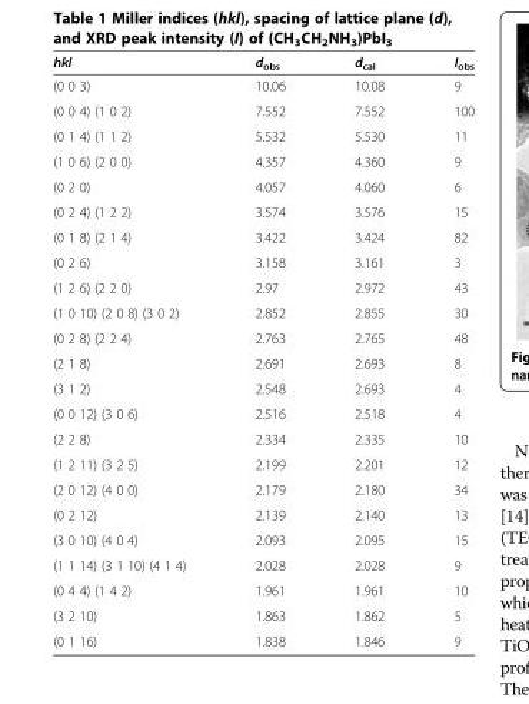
<table><thead><tr><td>hkl</td><td>d<sub>obs</sub></td><td>d<sub>cal</sub></td><td>I<sub>obs</sub></td></tr></thead><tbody><tr><td>(0 0 3)</td><td>10.06</td><td>10.08</td><td>9</td></tr><tr><td>(0 0 4) (1 0 2)</td><td>7.552</td><td>7.552</td><td>100</td></tr><tr><td>(0 1 4) (1 1 2)</td><td>5.532</td><td>5.530</td><td>11</td></tr><tr><td>(1 0 6) (2 0 0)</td><td>4.357</td><td>4.360</td><td>9</td></tr><tr><td>(0 2 0)</td><td>4.057</td><td>4.060</td><td>6</td></tr><tr><td>(0 2 4) (1 2 2)</td><td>3.574</td><td>3.576</td><td>15</td></tr><tr><td>(0 1 8) (2 1 4)</td><td>3.422</td><td>3.424</td><td>82</td></tr><tr><td>(0 2 6)</td><td>3.158</td><td>3.161</td><td>3</td></tr><tr><td>(1 2 6) (2 2 0)</td><td>2.97</td><td>2.972</td><td>43</td></tr><tr><td>(1 0 10) (2 0 8) (3 0 2)</td><td>2.852</td><td>2.855</td><td>30</td></tr><tr><td>(0 2 8) (2 2 4)</td><td>2.763</td><td>2.765</td><td>48</td></tr><tr><td>(2 1 8)</td><td>2.691</td><td>2.693</td><td>8</td></tr><tr><td>(3 1 2)</td><td>2.548</td><td>2.693</td><td>4</td></tr><tr><td>(0 0 12) (3 0 6)</td><td>2.516</td><td>2.518</td><td>4</td></tr><tr><td>(2 2 8)</td><td>2.334</td><td>2.335</td><td>10</td></tr><tr><td>(1 2 11) (3 2 5)</td><td>2.199</td><td>2.201</td><td>12</td></tr><tr><td>(2 0 12) (4 0 0)</td><td>2.179</td><td>2.180</td><td>34</td></tr><tr><td>(0 2 12)</td><td>2.139</td><td>2.140</td><td>13</td></tr><tr><td>(3 0 10) (4 0 4)</td><td>2.093</td><td>2.095</td><td>15</td></tr><tr><td>(1 1 14) (3 1 10) (4 1 4)</td><td>2.028</td><td>2.028</td><td>9</td></tr><tr><td>(0 4 4) (1 4 2)</td><td>1.961</td><td>1.961</td><td>10</td></tr><tr><td>(3 2 10)</td><td>1.863</td><td>1.862</td><td>5</td></tr><tr><td>(0 1 16)</td><td>1.838</td><td>1.846</td><td>9</td></tr></tbody></table>